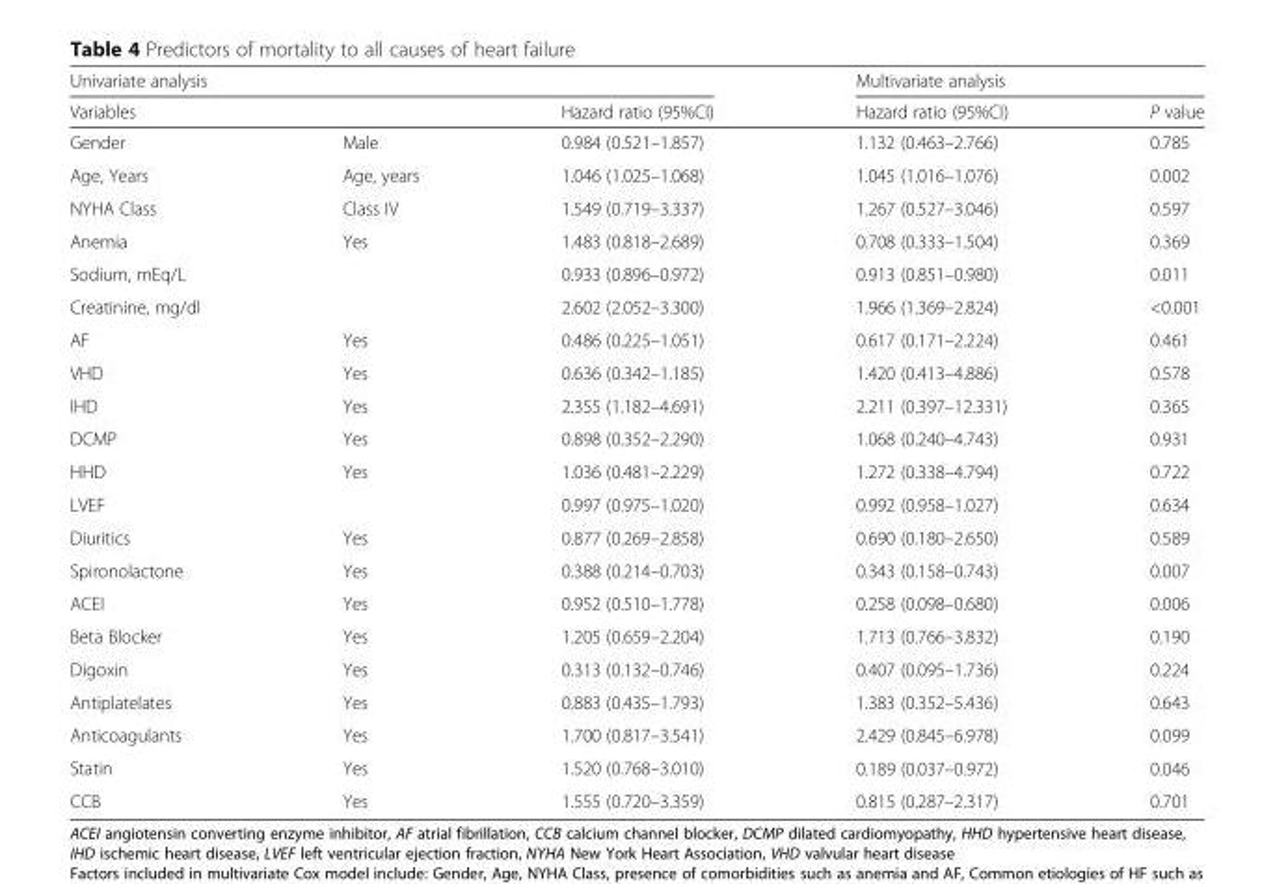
<table><thead><tr><td colspan="3">Univariate analysis</td><td colspan="2">Multivariate analysis</td></tr><tr><td>Variables</td><td></td><td>Hazard ratio (95%CI)</td><td>Hazard ratio (95%CI)</td><td>P value</td></tr></thead><tbody><tr><td>Gender</td><td>Male</td><td>0.984 (0.521–1.857)</td><td>1.132 (0.463–2.766)</td><td>0.785</td></tr><tr><td>Age, Years</td><td>Age, years</td><td>1.046 (1.025–1.068)</td><td>1.045 (1.016–1.076)</td><td>0.002</td></tr><tr><td>NYHA Class</td><td>Class IV</td><td>1.549 (0.719–3.337)</td><td>1.267 (0.527–3.046)</td><td>0.597</td></tr><tr><td>Anemia</td><td>Yes</td><td>1.483 (0.818–2.689)</td><td>0.708 (0.333–1.504)</td><td>0.369</td></tr><tr><td>Sodium, mEq/L</td><td></td><td>0.933 (0.896–0.972)</td><td>0.913 (0.851–0.980)</td><td>0.011</td></tr><tr><td>Creatinine, mg/dl</td><td></td><td>2.602 (2.052–3.300)</td><td>1.966 (1.369–2.824)</td><td>&lt;0.001</td></tr><tr><td>AF</td><td>Yes</td><td>0.486 (0.225–1.051)</td><td>0.617 (0.171–2.224)</td><td>0.461</td></tr><tr><td>VHD</td><td>Yes</td><td>0.636 (0.342–1.185)</td><td>1.420 (0.413–4.886)</td><td>0.578</td></tr><tr><td>IHD</td><td>Yes</td><td>2.355 (1.182–4.691)</td><td>2.211 (0.397–12.331)</td><td>0.365</td></tr><tr><td>DCMP</td><td>Yes</td><td>0.898 (0.352–2.290)</td><td>1.068 (0.240–4.743)</td><td>0.931</td></tr><tr><td>HHD</td><td>Yes</td><td>1.036 (0.481–2.229)</td><td>1.272 (0.338–4.794)</td><td>0.722</td></tr><tr><td>LVEF</td><td></td><td>0.997 (0.975–1.020)</td><td>0.992 (0.958–1.027)</td><td>0.634</td></tr><tr><td>Diuritics</td><td>Yes</td><td>0.877 (0.269–2.858)</td><td>0.690 (0.180–2.650)</td><td>0.589</td></tr><tr><td>Spironolactone</td><td>Yes</td><td>0.388 (0.214–0.703)</td><td>0.343 (0.158–0.743)</td><td>0.007</td></tr><tr><td>ACEI</td><td>Yes</td><td>0.952 (0.510–1.778)</td><td>0.258 (0.098–0.680)</td><td>0.006</td></tr><tr><td>Beta Blocker</td><td>Yes</td><td>1.205 (0.659–2.204)</td><td>1.713 (0.766–3.832)</td><td>0.190</td></tr><tr><td>Digoxin</td><td>Yes</td><td>0.313 (0.132–0.746)</td><td>0.407 (0.095–1.736)</td><td>0.224</td></tr><tr><td>Antiplatelates</td><td>Yes</td><td>0.883 (0.435–1.793)</td><td>1.383 (0.352–5.436)</td><td>0.643</td></tr><tr><td>Anticoagulants</td><td>Yes</td><td>1.700 (0.817–3.541)</td><td>2.429 (0.845–6.978)</td><td>0.099</td></tr><tr><td>Statin</td><td>Yes</td><td>1.520 (0.768–3.010)</td><td>0.189 (0.037–0.972)</td><td>0.046</td></tr><tr><td>CCB</td><td>Yes</td><td>1.555 (0.720–3.359)</td><td>0.815 (0.287–2.317)</td><td>0.701</td></tr></tbody></table>